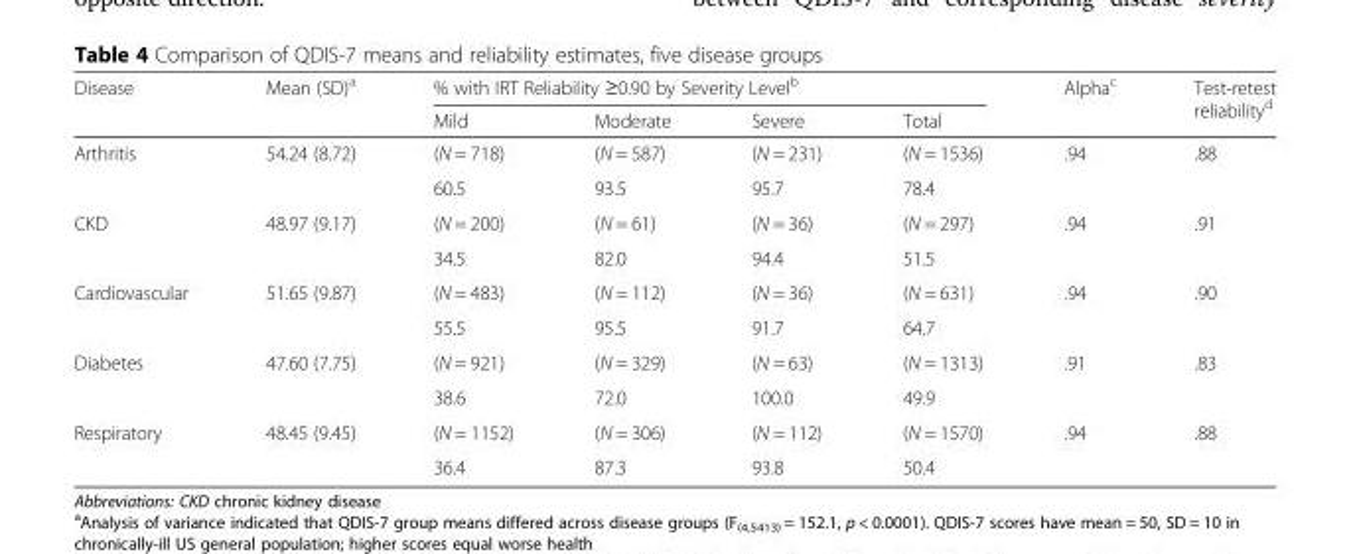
<table><thead><tr><td rowspan="2">Disease</td><td rowspan="2">Mean (SD)<sup>a</sup></td><td colspan="4">% with IRT Reliability ≥0.90 by Severity Level<sup>b</sup></td><td rowspan="2">Alpha<sup>c</sup></td><td rowspan="2">Test-retest reliability<sup>d</sup></td></tr><tr><td>Mild</td><td>Moderate</td><td>Severe</td><td>Total</td></tr></thead><tbody><tr><td rowspan="2">Arthritis</td><td rowspan="2">54.24 (8.72)</td><td>(N = 718)</td><td>(N = 587)</td><td>(N = 231)</td><td>(N = 1536)</td><td rowspan="2">.94</td><td rowspan="2">.88</td></tr><tr><td>60.5</td><td>93.5</td><td>95.7</td><td>78.4</td></tr><tr><td rowspan="2">CKD</td><td rowspan="2">48.97 (9.17)</td><td>(N = 200)</td><td>(N = 61)</td><td>(N = 36)</td><td>(N = 297)</td><td rowspan="2">.94</td><td rowspan="2">.91</td></tr><tr><td>34.5</td><td>82.0</td><td>94.4</td><td>51.5</td></tr><tr><td rowspan="2">Cardiovascular</td><td rowspan="2">51.65 (9.87)</td><td>(N = 483)</td><td>(N = 112)</td><td>(N = 36)</td><td>(N = 631)</td><td rowspan="2">.94</td><td rowspan="2">.90</td></tr><tr><td>55.5</td><td>95.5</td><td>91.7</td><td>64.7</td></tr><tr><td rowspan="2">Diabetes</td><td rowspan="2">47.60 (7.75)</td><td>(N = 921)</td><td>(N = 329)</td><td>(N = 63)</td><td>(N = 1313)</td><td rowspan="2">.91</td><td rowspan="2">.83</td></tr><tr><td>38.6</td><td>72.0</td><td>100.0</td><td>49.9</td></tr><tr><td rowspan="2">Respiratory</td><td rowspan="2">48.45 (9.45)</td><td>(N = 1152)</td><td>(N = 306)</td><td>(N = 112)</td><td>(N = 1570)</td><td rowspan="2">.94</td><td rowspan="2">.88</td></tr><tr><td>36.4</td><td>87.3</td><td>93.8</td><td>50.4</td></tr></tbody></table>